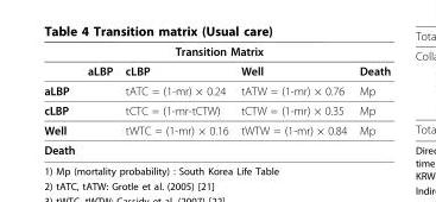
<table><thead><tr><td colspan="5">Transition Matrix</td></tr><tr><td></td><td>aLBP</td><td>cLBP</td><td>Well</td><td>Death</td></tr></thead><tbody><tr><td>aLBP</td><td></td><td>tATC = (1-mr) × 0.24</td><td>tATW = (1-mr) × 0.76</td><td>Mp</td></tr><tr><td>cLBP</td><td></td><td>tCTC = (1-mr-tCTW)</td><td>tCTW = (1-mr) × 0.35</td><td>Mp</td></tr><tr><td>Well</td><td></td><td>tWTC = (1-mr) × 0.16</td><td>tWTW = (1-mr) × 0.84</td><td>Mp</td></tr><tr><td>Death</td><td></td><td></td><td></td><td></td></tr></tbody></table>